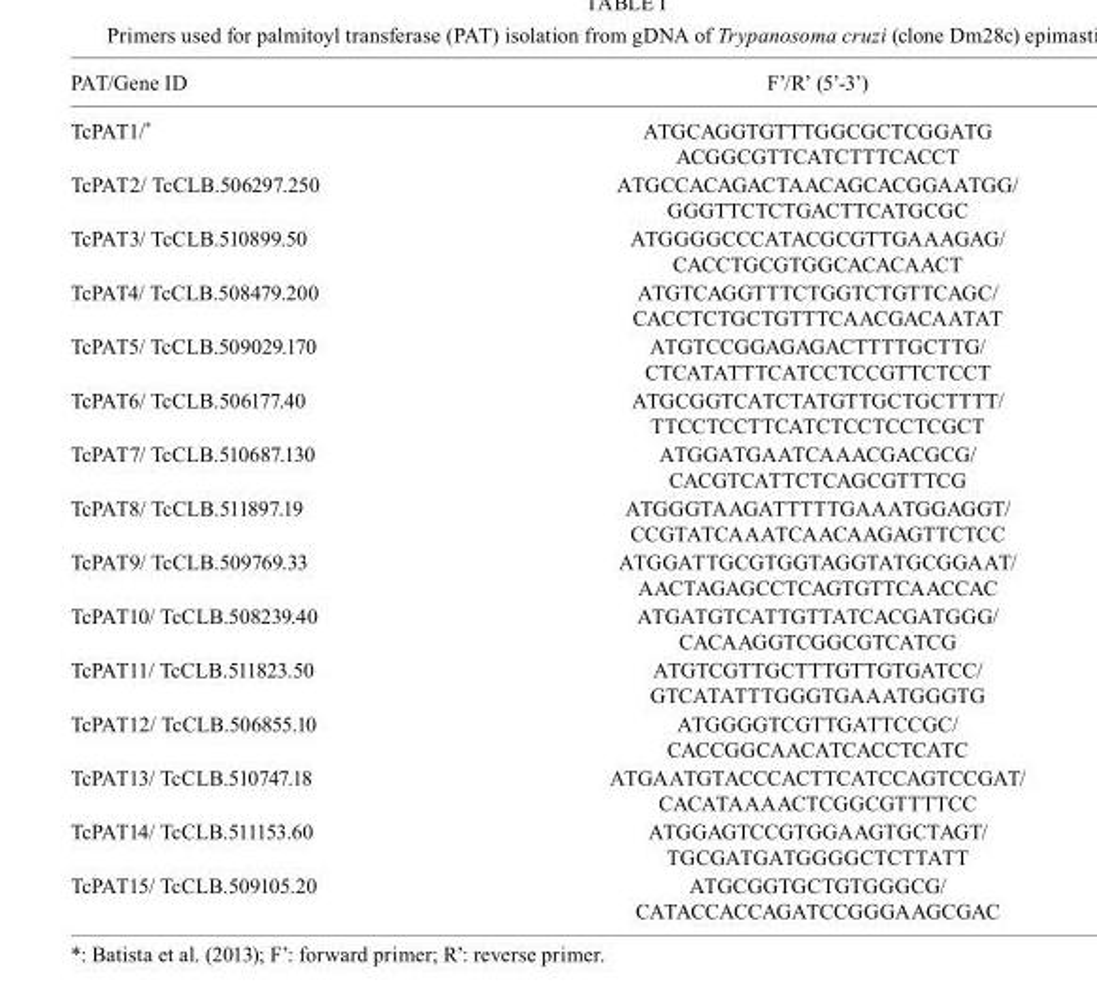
<table><thead><tr><td>PAT/Gene ID</td><td>F’/R’ (5’-3’)</td></tr></thead><tbody><tr><td>TcPAT1/*</td><td>ATGCAGGTGTTTGGCGCTCGGATG ACGGCGTTCATCTTTCACCT</td></tr><tr><td>TcPAT2/ TcCLB.506297.250</td><td>ATGCCACAGACTAACAGCACGGAATGG/ GGGTTCTCTGACTTCATGCGC</td></tr><tr><td>TcPAT3/ TcCLB.510899.50</td><td>ATGGGGCCCATACGCGTTGAAAGAG/ CACCTGCGTGGCACACAACT</td></tr><tr><td>TcPAT4/ TcCLB.508479.200</td><td>ATGTCAGGTTTCTGGTCTGTTCAGC/ CACCTCTGCTGTTTCAACGACAATAT</td></tr><tr><td>TcPAT5/ TcCLB.509029.170</td><td>ATGTCCGGAGAGACTTTTGCTTG/ CTCATATTTCATCCTCCGTTCTCCT</td></tr><tr><td>TcPAT6/ TcCLB.506177.40</td><td>ATGCGGTCATCTATGTTGCTGCTTTT/ TTCCTCCTTCATCTCCTCCTCGCT</td></tr><tr><td>TcPAT7/ TcCLB.510687.130</td><td>ATGGATGAATCAAACGACGCG/ CACGTCATTCTCAGCGTTTCG</td></tr><tr><td>TcPAT8/ TcCLB.511897.19</td><td>ATGGGTAAGATTTTTGAAATGGAGGT/ CCGTATCAAATCAACAAGAGTTCTCC</td></tr><tr><td>TcPAT9/ TcCLB.509769.33</td><td>ATGGATTGCGTGGTAGGTATGCGGAAT/ AACTAGAGCCTCAGTGTTCAACCAC</td></tr><tr><td>TcPAT10/ TcCLB.508239.40</td><td>ATGATGTCATTGTTATCACGATGGG/ CACAAGGTCGGCGTCATCG</td></tr><tr><td>TcPAT11/ TcCLB.511823.50</td><td>ATGTCGTTGCTTTGTTGTGATCC/ GTCATATTTGGGTGAAATGGGTG</td></tr><tr><td>TcPAT12/ TcCLB.506855.10</td><td>ATGGGGTCGTTGATTCCGC/ CACCGGCAACATCACCTCATC</td></tr><tr><td>TcPAT13/ TcCLB.510747.18</td><td>ATGAATGTACCCACTTCATCCAGTCCGAT/ CACATAAAACTCGGCGTTTTCC</td></tr><tr><td>TcPAT14/ TcCLB.511153.60</td><td>ATGGAGTCCGTGGAAGTGCTAGT/ TGCGATGATGGGGCTCTTATT</td></tr><tr><td>TcPAT15/ TcCLB.509105.20</td><td>ATGCGGTGCTGTGGGCG/ CATACCACCAGATCCGGGAAGCGAC</td></tr></tbody></table>